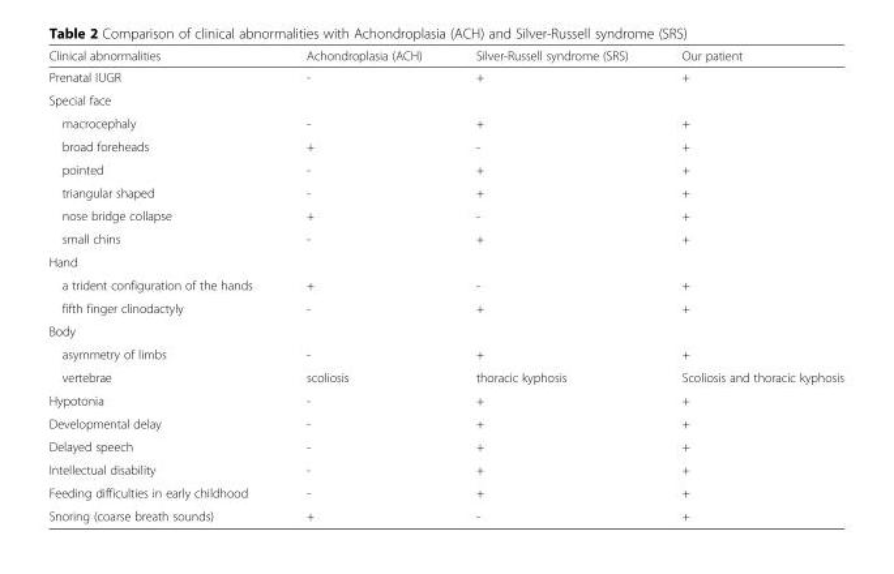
<table><thead><tr><td>Clinical abnormalities</td><td>Achondroplasia (ACH)</td><td>Silver-Russell syndrome (SRS)</td><td>Our patient</td></tr></thead><tbody><tr><td>Prenatal IUGR</td><td>-</td><td>+</td><td>+</td></tr><tr><td colspan="4">Special face</td></tr><tr><td>macrocephaly</td><td>-</td><td>+</td><td>+</td></tr><tr><td>broad foreheads</td><td>+</td><td>-</td><td>+</td></tr><tr><td>pointed</td><td>-</td><td>+</td><td>+</td></tr><tr><td>triangular shaped</td><td>-</td><td>+</td><td>+</td></tr><tr><td>nose bridge collapse</td><td>+</td><td>-</td><td>+</td></tr><tr><td>small chins</td><td>-</td><td>+</td><td>+</td></tr><tr><td colspan="4">Hand</td></tr><tr><td>a trident configuration of the hands</td><td>+</td><td>-</td><td>+</td></tr><tr><td>fifth finger clinodactyly</td><td>-</td><td>+</td><td>+</td></tr><tr><td colspan="4">Body</td></tr><tr><td>asymmetry of limbs</td><td>-</td><td>+</td><td>+</td></tr><tr><td>vertebrae</td><td>scoliosis</td><td>thoracic kyphosis</td><td>Scoliosis and thoracic kyphosis</td></tr><tr><td>Hypotonia</td><td>-</td><td>+</td><td>+</td></tr><tr><td>Developmental delay</td><td>-</td><td>+</td><td>+</td></tr><tr><td>Delayed speech</td><td>-</td><td>+</td><td>+</td></tr><tr><td>Intellectual disability</td><td>-</td><td>+</td><td>+</td></tr><tr><td>Feeding difficulties in early childhood</td><td>-</td><td>+</td><td>+</td></tr><tr><td>Snoring (coarse breath sounds)</td><td>+</td><td>-</td><td>+</td></tr></tbody></table>